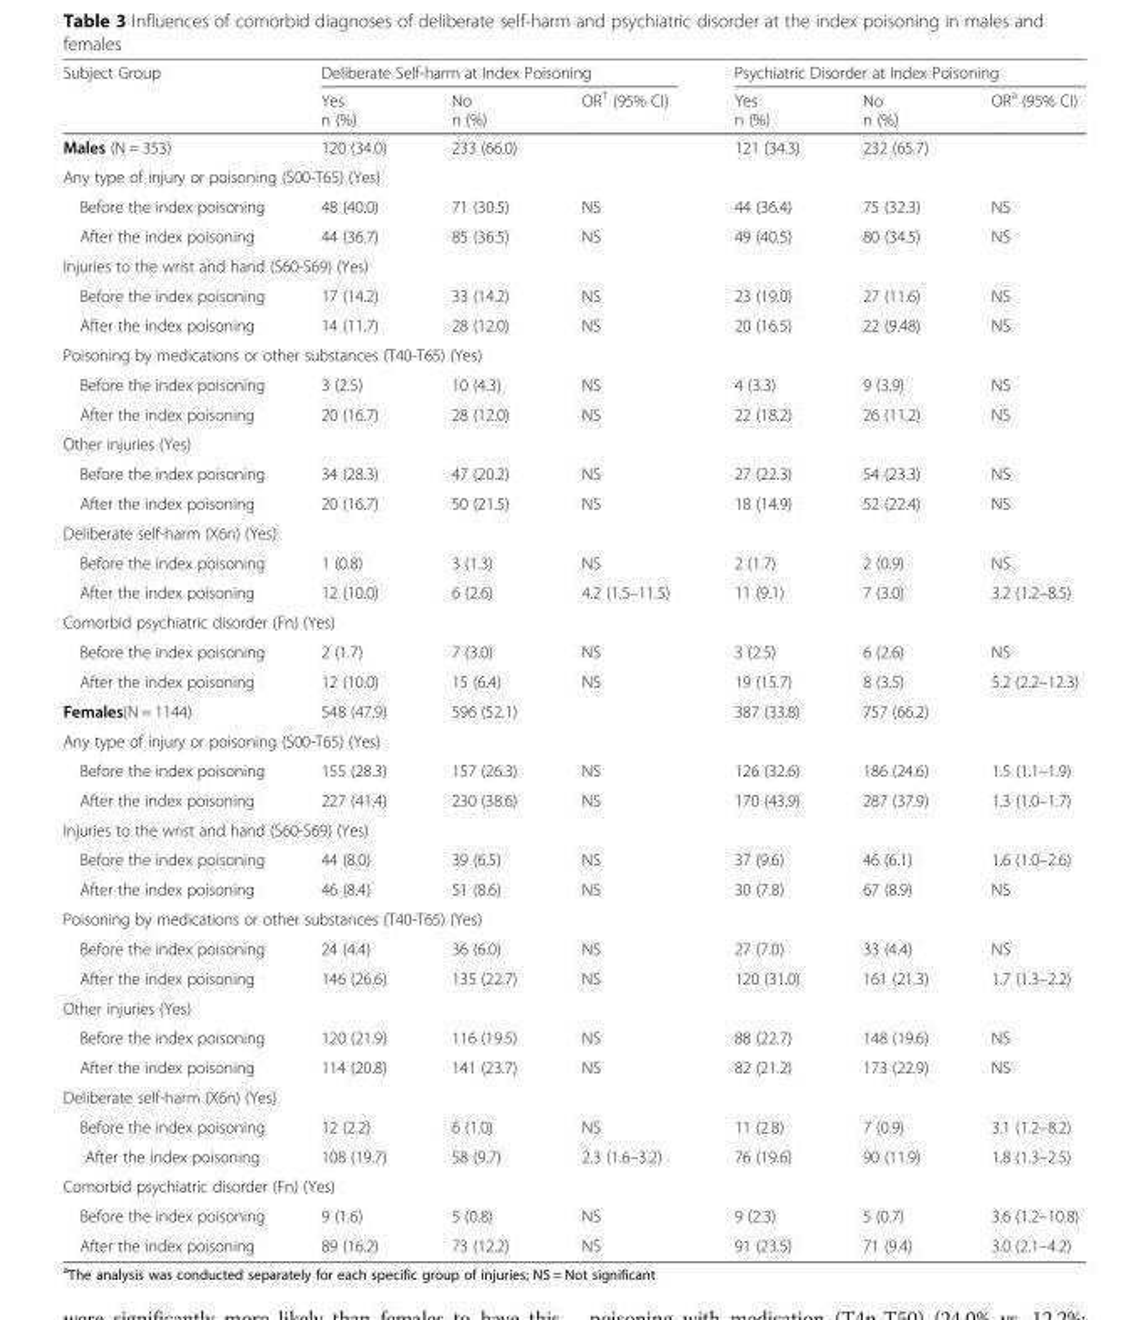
<table><thead><tr><td rowspan="2">Subject Group</td><td colspan="3">Deliberate Self-harm at Index Poisoning</td><td colspan="3">Psychiatric Disorder at Index Poisoning</td></tr><tr><td>Yes n (%)</td><td>No n (%)</td><td>OR<sup>†</sup> (95% CI)</td><td>Yes n (%)</td><td>No n (%)</td><td>OR<sup>a</sup> (95% CI)</td></tr></thead><tbody><tr><td>Males (N = 353)</td><td>120 (34.0)</td><td>233 (66.0)</td><td></td><td>121 (34.3)</td><td>232 (65.7)</td><td></td></tr><tr><td colspan="7">Any type of injury or poisoning (S00-T65) (Yes)</td></tr><tr><td>Before the index poisoning</td><td>48 (40.0)</td><td>71 (30.5)</td><td>NS</td><td>44 (36.4)</td><td>75 (32.3)</td><td>NS</td></tr><tr><td>After the index poisoning</td><td>44 (36.7)</td><td>85 (36.5)</td><td>NS</td><td>49 (40.5)</td><td>80 (34.5)</td><td>NS</td></tr><tr><td colspan="7">Injuries to the wrist and hand (S60-S69) (Yes)</td></tr><tr><td>Before the index poisoning</td><td>17 (14.2)</td><td>33 (14.2)</td><td>NS</td><td>23 (19.0)</td><td>27 (11.6)</td><td>NS</td></tr><tr><td>After the index poisoning</td><td>14 (11.7)</td><td>28 (12.0)</td><td>NS</td><td>20 (16.5)</td><td>22 (9.48)</td><td>NS</td></tr><tr><td colspan="7">Poisoning by medications or other substances (T40-T65) (Yes)</td></tr><tr><td>Before the index poisoning</td><td>3 (2.5)</td><td>10 (4.3)</td><td>NS</td><td>4 (3.3)</td><td>9 (3.9)</td><td>NS</td></tr><tr><td>After the index poisoning</td><td>20 (16.7)</td><td>28 (12.0)</td><td>NS</td><td>22 (18.2)</td><td>26 (11.2)</td><td>NS</td></tr><tr><td colspan="7">Other injuries (Yes)</td></tr><tr><td>Before the index poisoning</td><td>34 (28.3)</td><td>47 (20.2)</td><td>NS</td><td>27 (22.3)</td><td>54 (23.3)</td><td>NS</td></tr><tr><td>After the index poisoning</td><td>20 (16.7)</td><td>50 (21.5)</td><td>NS</td><td>18 (14.9)</td><td>52 (22.4)</td><td>NS</td></tr><tr><td colspan="7">Deliberate self-harm (X6n) (Yes)</td></tr><tr><td>Before the index poisoning</td><td>1 (0.8)</td><td>3 (1.3)</td><td>NS</td><td>2 (1.7)</td><td>2 (0.9)</td><td>NS</td></tr><tr><td>After the index poisoning</td><td>12 (10.0)</td><td>6 (2.6)</td><td>4.2 (1.5–11.5)</td><td>11 (9.1)</td><td>7 (3.0)</td><td>3.2 (1.2–8.5)</td></tr><tr><td colspan="7">Comorbid psychiatric disorder (Fn) (Yes)</td></tr><tr><td>Before the index poisoning</td><td>2 (1.7)</td><td>7 (3.0)</td><td>NS</td><td>3 (2.5)</td><td>6 (2.6)</td><td>NS</td></tr><tr><td>After the index poisoning</td><td>12 (10.0)</td><td>15 (6.4)</td><td>NS</td><td>19 (15.7)</td><td>8 (3.5)</td><td>5.2 (2.2–12.3)</td></tr><tr><td>Females(N = 1144)</td><td>548 (47.9)</td><td>596 (52.1)</td><td></td><td>387 (33.8)</td><td>757 (66.2)</td><td></td></tr><tr><td colspan="7">Any type of injury or poisoning (S00-T65) (Yes)</td></tr><tr><td>Before the index poisoning</td><td>155 (28.3)</td><td>157 (26.3)</td><td>NS</td><td>126 (32.6)</td><td>186 (24.6)</td><td>1.5 (1.1–1.9)</td></tr><tr><td>After the index poisoning</td><td>227 (41.4)</td><td>230 (38.6)</td><td>NS</td><td>170 (43.9)</td><td>287 (37.9)</td><td>1.3 (1.0–1.7)</td></tr><tr><td colspan="7">Injuries to the wrist and hand (S60-S69) (Yes)</td></tr><tr><td>Before the index poisoning</td><td>44 (8.0)</td><td>39 (6.5)</td><td>NS</td><td>37 (9.6)</td><td>46 (6.1)</td><td>1.6 (1.0–2.6)</td></tr><tr><td>After the index poisoning</td><td>46 (8.4)</td><td>51 (8.6)</td><td>NS</td><td>30 (7.8)</td><td>67 (8.9)</td><td>NS</td></tr><tr><td colspan="7">Poisoning by medications or other substances (T40-T65) (Yes)</td></tr><tr><td>Before the index poisoning</td><td>24 (4.4)</td><td>36 (6.0)</td><td>NS</td><td>27 (7.0)</td><td>33 (4.4)</td><td>NS</td></tr><tr><td>After the index poisoning</td><td>146 (26.6)</td><td>135 (22.7)</td><td>NS</td><td>120 (31.0)</td><td>161 (21.3)</td><td>1.7 (1.3–2.2)</td></tr><tr><td colspan="7">Other injuries (Yes)</td></tr><tr><td>Before the index poisoning</td><td>120 (21.9)</td><td>116 (19.5)</td><td>NS</td><td>88 (22.7)</td><td>148 (19.6)</td><td>NS</td></tr><tr><td>After the index poisoning</td><td>114 (20.8)</td><td>141 (23.7)</td><td>NS</td><td>82 (21.2)</td><td>173 (22.9)</td><td>NS</td></tr><tr><td colspan="7">Deliberate self-harm (X6n) (Yes)</td></tr><tr><td>Before the index poisoning</td><td>12 (2.2)</td><td>6 (1.0)</td><td>NS</td><td>11 (2.8)</td><td>7 (0.9)</td><td>3.1 (1.2–8.2)</td></tr><tr><td>After the index poisoning</td><td>108 (19.7)</td><td>58 (9.7)</td><td>2.3 (1.6–3.2)</td><td>76 (19.6)</td><td>90 (11.9)</td><td>1.8 (1.3–2.5)</td></tr><tr><td colspan="7">Comorbid psychiatric disorder (Fn) (Yes)</td></tr><tr><td>Before the index poisoning</td><td>9 (1.6)</td><td>5 (0.8)</td><td>NS</td><td>9 (2.3)</td><td>5 (0.7)</td><td>3.6 (1.2–10.8)</td></tr><tr><td>After the index poisoning</td><td>89 (16.2)</td><td>73 (12.2)</td><td>NS</td><td>91 (23.5)</td><td>71 (9.4)</td><td>3.0 (2.1–4.2)</td></tr></tbody></table>